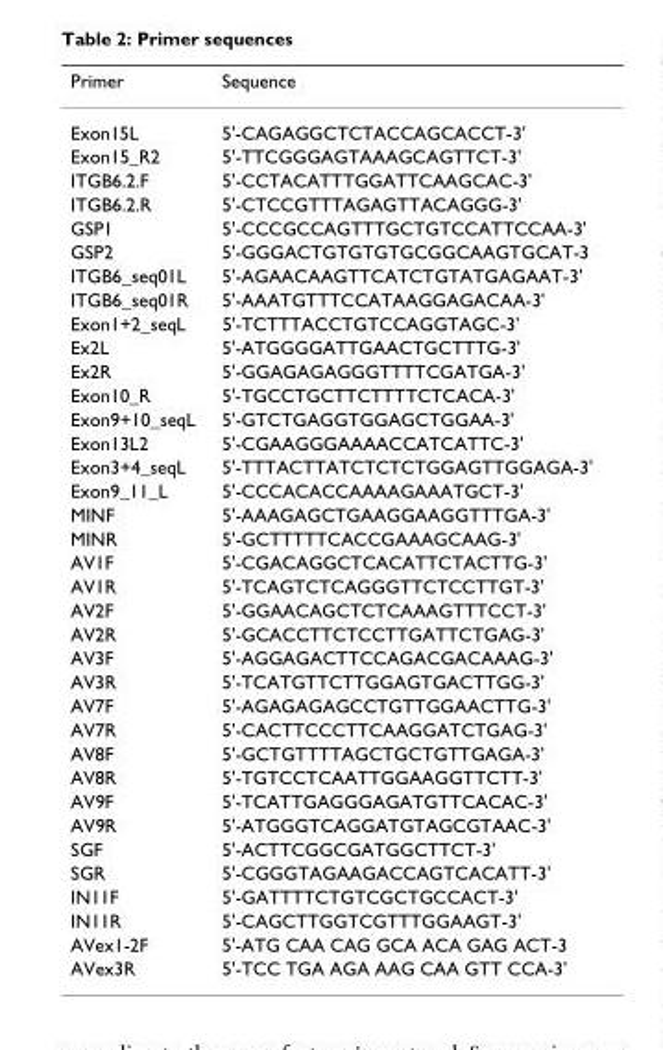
<table><thead><tr><td>Primer</td><td>Sequence</td></tr></thead><tbody><tr><td>Exon15L</td><td>5&#x27;-CAGAGGCTCTACCAGCACCT-3&#x27;</td></tr><tr><td>Exon15_R2</td><td>5&#x27;-TTCGGGAGTAAAGCAGTTCT-3&#x27;</td></tr><tr><td>ITGB6.2.F</td><td>5&#x27;-CCTACATTTGGATTCAAGCAC-3&#x27;</td></tr><tr><td>ITGB6.2.R</td><td>5&#x27;-CTCCGTTTAGAGTTACAGGG-3&#x27;</td></tr><tr><td>GSP1</td><td>5&#x27;-CCCGCCAGTTTGCTGTCCATTCCAA-3&#x27;</td></tr><tr><td>GSP2</td><td>5&#x27;-GGGACTGTGTGTGCGGCAAGTGCAT-3</td></tr><tr><td>ITGB6_seq01L</td><td>5&#x27;-AGAACAAGTTCATCTGTATGAGAAT-3&#x27;</td></tr><tr><td>ITGB6_seq01R</td><td>5&#x27;-AAATGTTTCCATAAGGAGACAA-3&#x27;</td></tr><tr><td>Exon1+2_seqL</td><td>5&#x27;-TCTTTACCTGTCCAGGTAGC-3&#x27;</td></tr><tr><td>Ex2L</td><td>5&#x27;-ATGGGGATTGAACTGCTTTG-3&#x27;</td></tr><tr><td>Ex2R</td><td>5&#x27;-GGAGAGAGGGTTTTCGATGA-3&#x27;</td></tr><tr><td>Exon10_R</td><td>5&#x27;-TGCCTGCTTCTTTTCTCACA-3&#x27;</td></tr><tr><td>Exon9+10_seqL</td><td>5&#x27;-GTCTGAGGTGGAGCTGGAA-3&#x27;</td></tr><tr><td>Exon13L2</td><td>5&#x27;-CGAAGGGAAAACCATCATTC-3&#x27;</td></tr><tr><td>Exon3+4_seqL</td><td>5&#x27;-TTTACTTATCTCTCTGGAGTTGGAGA-3&#x27;</td></tr><tr><td>Exon9_11_L</td><td>5&#x27;-CCCACACCAAAAGAAATGCT-3&#x27;</td></tr><tr><td>MINF</td><td>5&#x27;-AAAGAGCTGAAGGAAGGTTTGA-3&#x27;</td></tr><tr><td>MINR</td><td>5&#x27;-GCTTTTTCACCGAAAGCAAG-3&#x27;</td></tr><tr><td>AV1F</td><td>5&#x27;-CGACAGGCTCACATTCTACTTG-3&#x27;</td></tr><tr><td>AV1R</td><td>5&#x27;-TCAGTCTCAGGGTTCTCCTTGT-3&#x27;</td></tr><tr><td>AV2F</td><td>5&#x27;-GGAACAGCTCTCAAAGTTTCCT-3&#x27;</td></tr><tr><td>AV2R</td><td>5&#x27;-GCACCTTCTCCTTGATTCTGAG-3&#x27;</td></tr><tr><td>AV3F</td><td>5&#x27;-AGGAGACTTCCAGACGACAAAG-3&#x27;</td></tr><tr><td>AV3R</td><td>5&#x27;-TCATGTTCTTGGAGTGACTTGG-3&#x27;</td></tr><tr><td>AV7F</td><td>5&#x27;-AGAGAGAGCCTGTTGGAACTTG-3&#x27;</td></tr><tr><td>AV7R</td><td>5&#x27;-CACTTCCCTTCAAGGATCTGAG-3&#x27;</td></tr><tr><td>AV8F</td><td>5&#x27;-GCTGTTTTAGCTGCTGTTGAGA-3&#x27;</td></tr><tr><td>AV8R</td><td>5&#x27;-TGTCCTCAATTGGAAGGTTCTT-3&#x27;</td></tr><tr><td>AV9F</td><td>5&#x27;-TCATTGAGGGAGATGTTCACAC-3&#x27;</td></tr><tr><td>AV9R</td><td>5&#x27;-ATGGGTCAGGATGTAGCGTAAC-3&#x27;</td></tr><tr><td>SGF</td><td>5&#x27;-ACTTCGGCGATGGCTTCT-3&#x27;</td></tr><tr><td>SGR</td><td>5&#x27;-CGGGTAGAAGACCAGTCACATT-3&#x27;</td></tr><tr><td>IN11F</td><td>5&#x27;-GATTTTCTGTCGCTGCCACT-3&#x27;</td></tr><tr><td>IN11R</td><td>5&#x27;-CAGCTTGGTCGTTTGGAAGT-3&#x27;</td></tr><tr><td>AVex1-2F</td><td>5&#x27;-ATG CAA CAG GCA ACA GAG ACT-3</td></tr><tr><td>AVex3R</td><td>5&#x27;-TCC TGA AGA AAG CAA GTT CCA-3&#x27;</td></tr></tbody></table>